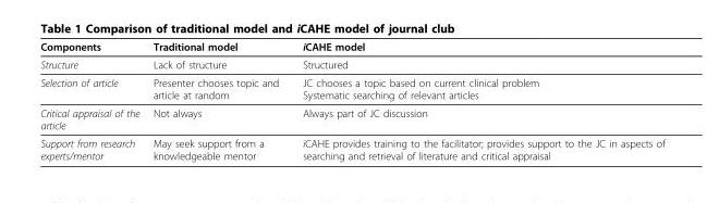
<table><thead><tr><td>Components</td><td>Traditional model</td><td>iCAHE model</td></tr></thead><tbody><tr><td>Structure</td><td>Lack of structure</td><td>Structured</td></tr><tr><td>Selection of article</td><td>Presenter chooses topic and article at random</td><td>JC chooses a topic based on current clinical problem Systematic searching of relevant articles</td></tr><tr><td>Critical appraisal of the article</td><td>Not always</td><td>Always part of JC discussion</td></tr><tr><td>Support from research experts/mentor</td><td>May seek support from a knowledgeable mentor</td><td>iCAHE provides training to the facilitator; provides support to the JC in aspects of searching and retrieval of literature and critical appraisal</td></tr></tbody></table>